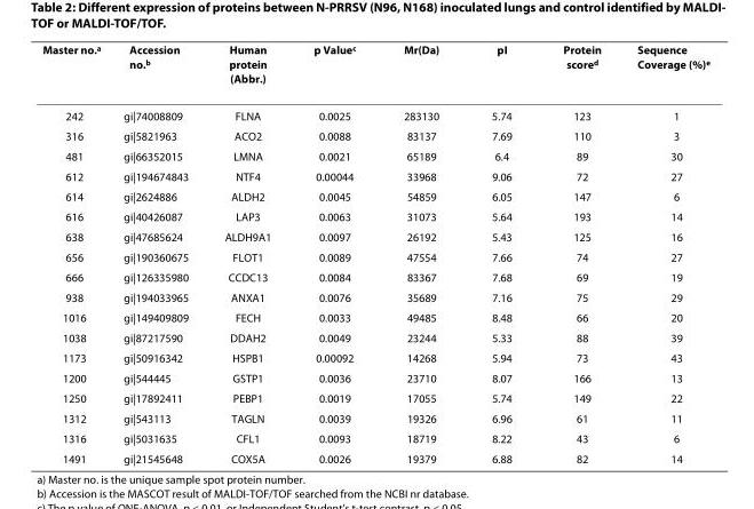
<table><thead><tr><td>Master no.<sup>a</sup></td><td>Accession no.<sup>b</sup></td><td>Human protein (Abbr.)</td><td>p Value<sup>c</sup></td><td>Mr(Da)</td><td>pI</td><td>Protein score<sup>d</sup></td><td>Sequence Coverage (%)<sup>e</sup></td></tr></thead><tbody><tr><td>242</td><td>gi|74008809</td><td>FLNA</td><td>0.0025</td><td>283130</td><td>5.74</td><td>123</td><td>1</td></tr><tr><td>316</td><td>gi|5821963</td><td>ACO2</td><td>0.0088</td><td>83137</td><td>7.69</td><td>110</td><td>3</td></tr><tr><td>481</td><td>gi|66352015</td><td>LMNA</td><td>0.0021</td><td>65189</td><td>6.4</td><td>89</td><td>30</td></tr><tr><td>612</td><td>gi|194674843</td><td>NTF4</td><td>0.00044</td><td>33968</td><td>9.06</td><td>72</td><td>27</td></tr><tr><td>614</td><td>gi|2624886</td><td>ALDH2</td><td>0.0045</td><td>54859</td><td>6.05</td><td>147</td><td>6</td></tr><tr><td>616</td><td>gi|40426087</td><td>LAP3</td><td>0.0063</td><td>31073</td><td>5.64</td><td>193</td><td>14</td></tr><tr><td>638</td><td>gi|47685624</td><td>ALDH9A1</td><td>0.0097</td><td>26192</td><td>5.43</td><td>125</td><td>16</td></tr><tr><td>656</td><td>gi|190360675</td><td>FLOT1</td><td>0.0089</td><td>47554</td><td>7.66</td><td>74</td><td>27</td></tr><tr><td>666</td><td>gi|126335980</td><td>CCDC13</td><td>0.0084</td><td>83367</td><td>7.68</td><td>69</td><td>19</td></tr><tr><td>938</td><td>gi|194033965</td><td>ANXA1</td><td>0.0076</td><td>35689</td><td>7.16</td><td>75</td><td>29</td></tr><tr><td>1016</td><td>gi|149409809</td><td>FECH</td><td>0.0033</td><td>49485</td><td>8.48</td><td>66</td><td>20</td></tr><tr><td>1038</td><td>gi|87217590</td><td>DDAH2</td><td>0.0049</td><td>23244</td><td>5.33</td><td>88</td><td>39</td></tr><tr><td>1173</td><td>gi|50916342</td><td>HSPB1</td><td>0.00092</td><td>14268</td><td>5.94</td><td>73</td><td>43</td></tr><tr><td>1200</td><td>gi|544445</td><td>GSTP1</td><td>0.0036</td><td>23710</td><td>8.07</td><td>166</td><td>13</td></tr><tr><td>1250</td><td>gi|17892411</td><td>PEBP1</td><td>0.0019</td><td>17055</td><td>5.74</td><td>149</td><td>22</td></tr><tr><td>1312</td><td>gi|543113</td><td>TAGLN</td><td>0.0039</td><td>19326</td><td>6.96</td><td>61</td><td>11</td></tr><tr><td>1316</td><td>gi|5031635</td><td>CFL1</td><td>0.0093</td><td>18719</td><td>8.22</td><td>43</td><td>6</td></tr><tr><td>1491</td><td>gi|21545648</td><td>COX5A</td><td>0.0026</td><td>19379</td><td>6.88</td><td>82</td><td>14</td></tr></tbody></table>